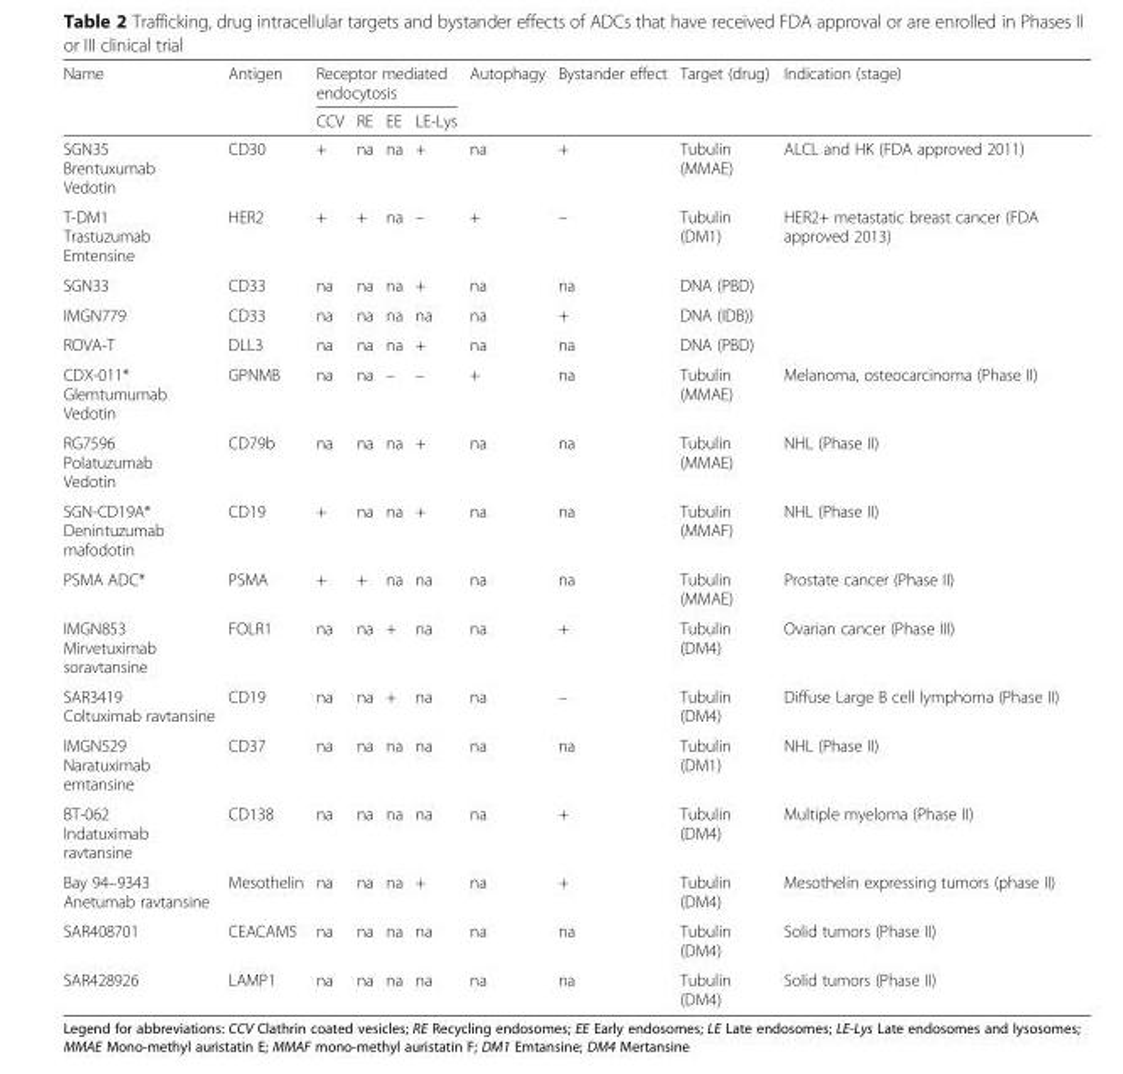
<table><thead><tr><td rowspan="2">Name</td><td rowspan="2">Antigen</td><td colspan="4">Receptor mediated endocytosis</td><td rowspan="2">Autophagy</td><td rowspan="2">Bystander effect</td><td rowspan="2">Target (drug)</td><td rowspan="2">Indication (stage)</td></tr><tr><td>CCV</td><td>RE</td><td>EE</td><td>LE-Lys</td></tr></thead><tbody><tr><td>SGN35 Brentuxumab Vedotin</td><td>CD30</td><td>+</td><td>na</td><td>na</td><td>+</td><td>na</td><td>+</td><td>Tubulin (MMAE)</td><td>ALCL and HK (FDA approved 2011)</td></tr><tr><td>T-DM1 Trastuzumab Emtensine</td><td>HER2</td><td>+</td><td>+</td><td>na</td><td>–</td><td>+</td><td>–</td><td>Tubulin (DM1)</td><td>HER2+ metastatic breast cancer (FDA approved 2013)</td></tr><tr><td>SGN33</td><td>CD33</td><td>na</td><td>na</td><td>na</td><td>+</td><td>na</td><td>na</td><td>DNA (PBD)</td><td></td></tr><tr><td>IMGN779</td><td>CD33</td><td>na</td><td>na</td><td>na</td><td>na</td><td>na</td><td>+</td><td>DNA (IDB))</td><td></td></tr><tr><td>ROVA-T</td><td>DLL3</td><td>na</td><td>na</td><td>na</td><td>+</td><td>na</td><td>na</td><td>DNA (PBD)</td><td></td></tr><tr><td>CDX-011* Glemtumumab Vedotin</td><td>GPNMB</td><td>na</td><td>na</td><td>–</td><td>–</td><td>+</td><td>na</td><td>Tubulin (MMAE)</td><td>Melanoma, osteocarcinoma (Phase II)</td></tr><tr><td>RG7596 Polatuzumab Vedotin</td><td>CD79b</td><td>na</td><td>na</td><td>na</td><td>+</td><td>na</td><td>na</td><td>Tubulin (MMAE)</td><td>NHL (Phase II)</td></tr><tr><td>SGN-CD19A* Denintuzumab mafodotin</td><td>CD19</td><td>+</td><td>na</td><td>na</td><td>+</td><td>na</td><td>na</td><td>Tubulin (MMAF)</td><td>NHL (Phase II)</td></tr><tr><td>PSMA ADC*</td><td>PSMA</td><td>+</td><td>+</td><td>na</td><td>na</td><td>na</td><td>na</td><td>Tubulin (MMAE)</td><td>Prostate cancer (Phase II)</td></tr><tr><td>IMGN853 Mirvetuximab soravtansine</td><td>FOLR1</td><td>na</td><td>na</td><td>+</td><td>na</td><td>na</td><td>+</td><td>Tubulin (DM4)</td><td>Ovarian cancer (Phase III)</td></tr><tr><td>SAR3419 Coltuximab ravtansine</td><td>CD19</td><td>na</td><td>na</td><td>+</td><td>na</td><td>na</td><td>–</td><td>Tubulin (DM4)</td><td>Diffuse Large B cell lymphoma (Phase II)</td></tr><tr><td>IMGN529 Naratuximab emtansine</td><td>CD37</td><td>na</td><td>na</td><td>na</td><td>na</td><td>na</td><td>na</td><td>Tubulin (DM1)</td><td>NHL (Phase II)</td></tr><tr><td>BT-062 Indatuximab ravtansine</td><td>CD138</td><td>na</td><td>na</td><td>na</td><td>na</td><td>na</td><td>+</td><td>Tubulin (DM4)</td><td>Multiple myeloma (Phase II)</td></tr><tr><td>Bay 94–9343 Anetumab ravtansine</td><td>Mesothelin</td><td>na</td><td>na</td><td>na</td><td>+</td><td>na</td><td>+</td><td>Tubulin (DM4)</td><td>Mesothelin expressing tumors (phase II)</td></tr><tr><td>SAR408701</td><td>CEACAM5</td><td>na</td><td>na</td><td>na</td><td>na</td><td>na</td><td>na</td><td>Tubulin (DM4)</td><td>Solid tumors (Phase II)</td></tr><tr><td>SAR428926</td><td>LAMP1</td><td>na</td><td>na</td><td>na</td><td>na</td><td>na</td><td>na</td><td>Tubulin (DM4)</td><td>Solid tumors (Phase II)</td></tr></tbody></table>